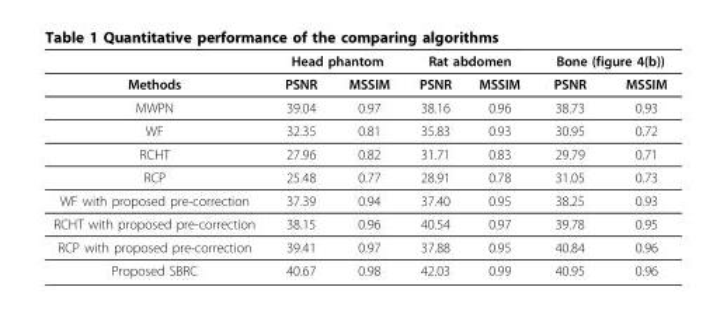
<table><thead><tr><td rowspan="2">Methods</td><td colspan="2">Head phantom</td><td colspan="2">Rat abdomen</td><td colspan="2">Bone (figure 4(b))</td></tr><tr><td>PSNR</td><td>MSSIM</td><td>PSNR</td><td>MSSIM</td><td>PSNR</td><td>MSSIM</td></tr></thead><tbody><tr><td>MWPN</td><td>39.04</td><td>0.97</td><td>38.16</td><td>0.96</td><td>38.73</td><td>0.93</td></tr><tr><td>WF</td><td>32.35</td><td>0.81</td><td>35.83</td><td>0.93</td><td>30.95</td><td>0.72</td></tr><tr><td>RCHT</td><td>27.96</td><td>0.82</td><td>31.71</td><td>0.83</td><td>29.79</td><td>0.71</td></tr><tr><td>RCP</td><td>25.48</td><td>0.77</td><td>28.91</td><td>0.78</td><td>31.05</td><td>0.73</td></tr><tr><td>WF with proposed pre-correction</td><td>37.39</td><td>0.94</td><td>37.40</td><td>0.95</td><td>38.25</td><td>0.93</td></tr><tr><td>RCHT with proposed pre-correction</td><td>38.15</td><td>0.96</td><td>40.54</td><td>0.97</td><td>39.78</td><td>0.95</td></tr><tr><td>RCP with proposed pre-correction</td><td>39.41</td><td>0.97</td><td>37.88</td><td>0.95</td><td>40.84</td><td>0.96</td></tr><tr><td>Proposed SBRC</td><td>40.67</td><td>0.98</td><td>42.03</td><td>0.99</td><td>40.95</td><td>0.96</td></tr></tbody></table>